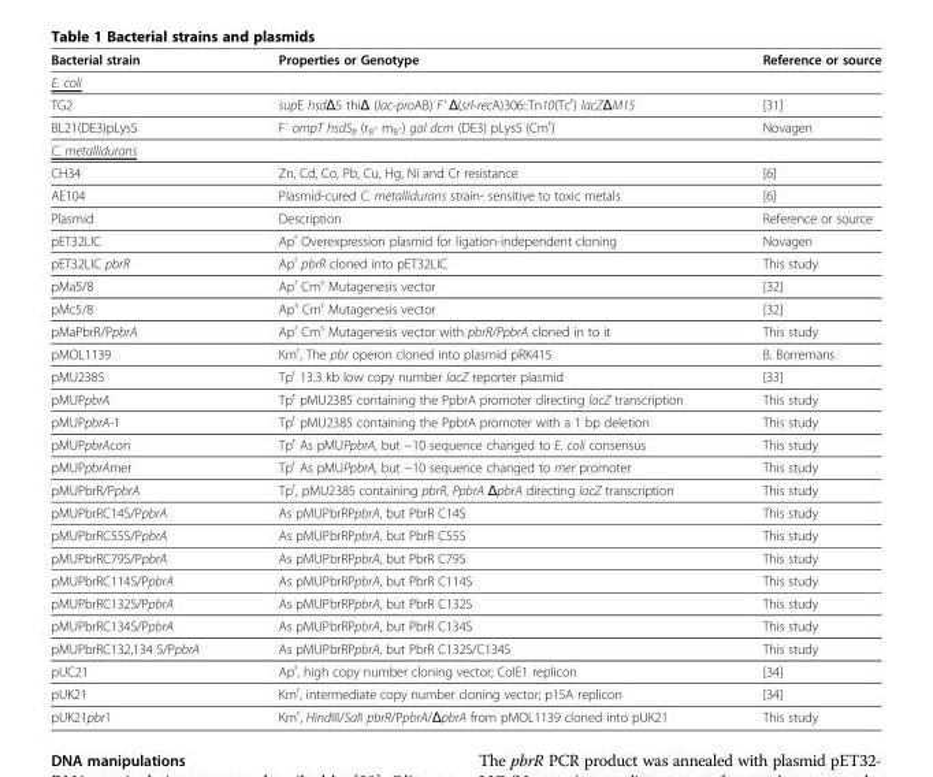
<table><thead><tr><td>Bacterial strain</td><td>Properties or Genotype</td><td>Reference or source</td></tr></thead><tbody><tr><td colspan="3">E. coli</td></tr><tr><td>TG2</td><td>supE hsdΔ5 thiΔ (lac-proAB) F&#x27; Δ(srl-recA)306::Tn10(Tc<sup>r</sup>) lacZΔM15</td><td>[31]</td></tr><tr><td>BL21(DE3)pLysS</td><td>F<sup>-</sup> ompT hsdS<sub>B</sub> (r<sub>B</sub>- m<sub>B</sub>-) gal dcm (DE3) pLysS (Cm<sup>r</sup>)</td><td>Novagen</td></tr><tr><td colspan="3">C. metallidurans</td></tr><tr><td>CH34</td><td>Zn, Cd, Co, Pb, Cu, Hg, Ni and Cr resistance</td><td>[6]</td></tr><tr><td>AE104</td><td>Plasmid-cured C. metallidurans strain- sensitive to toxic metals</td><td>[6]</td></tr><tr><td>Plasmid</td><td>Description</td><td>Reference or source</td></tr><tr><td>pET32LIC</td><td>Ap<sup>r</sup> Overexpression plasmid for ligation-independent cloning</td><td>Novagen</td></tr><tr><td>pET32LIC pbrR</td><td>Ap<sup>r</sup> pbrR cloned into pET32LIC</td><td>This study</td></tr><tr><td>pMa5/8</td><td>Ap<sup>r</sup> Cm<sup>s</sup> Mutagenesis vector</td><td>[32]</td></tr><tr><td>pMc5/8</td><td>Ap<sup>s</sup> Cm<sup>r</sup> Mutagenesis vector</td><td>[32]</td></tr><tr><td>pMaPbrR/PpbrA</td><td>Ap<sup>r</sup> Cm<sup>s</sup> Mutagenesis vector with pbrR/PpbrA cloned in to it</td><td>This study</td></tr><tr><td>pMOL1139</td><td>Km<sup>r</sup>, The pbr operon cloned into plasmid pRK415</td><td>B. Borremans</td></tr><tr><td>pMU2385</td><td>Tp<sup>r</sup> 13.3 kb low copy number lacZ reporter plasmid</td><td>[33]</td></tr><tr><td>pMUPpbrA</td><td>Tp<sup>r</sup> pMU2385 containing the PpbrA promoter directing lacZ transcription</td><td>This study</td></tr><tr><td>pMUPpbrA-1</td><td>Tp<sup>r</sup> pMU2385 containing the PpbrA promoter with a 1 bp deletion</td><td>This study</td></tr><tr><td>pMUPpbrAcon</td><td>Tp<sup>r</sup> As pMUPpbrA, but −10 sequence changed to E. coli consensus</td><td>This study</td></tr><tr><td>pMUPpbrAmer</td><td>Tp<sup>r</sup> As pMUPpbrA, but −10 sequence changed to mer promoter</td><td>This study</td></tr><tr><td>pMUPbrR/PpbrA</td><td>Tp<sup>r</sup>, pMU2385 containing pbrR, PpbrA ΔpbrA directing lacZ transcription</td><td>This study</td></tr><tr><td>pMUPbrRC14S/PpbrA</td><td>As pMUPbrRPpbrA, but PbrR C14S</td><td>This study</td></tr><tr><td>pMUPbrRC55S/PpbrA</td><td>As pMUPbrRPpbrA, but PbrR C55S</td><td>This study</td></tr><tr><td>pMUPbrRC79S/PpbrA</td><td>As pMUPbrRPpbrA, but PbrR C79S</td><td>This study</td></tr><tr><td>pMUPbrRC114S/PpbrA</td><td>As pMUPbrRPpbrA, but PbrR C114S</td><td>This study</td></tr><tr><td>pMUPbrRC132S/PpbrA</td><td>As pMUPbrRPpbrA, but PbrR C132S</td><td>This study</td></tr><tr><td>pMUPbrRC134S/PpbrA</td><td>As pMUPbrRPpbrA, but PbrR C134S</td><td>This study</td></tr><tr><td>pMUPbrRC132,134 S/PpbrA</td><td>As pMUPbrRPpbrA, but PbrR C132S/C134S</td><td>This study</td></tr><tr><td>pUC21</td><td>Ap<sup>r</sup>, high copy number cloning vector; ColE1 replicon</td><td>[34]</td></tr><tr><td>pUK21</td><td>Km<sup>r</sup>, intermediate copy number cloning vector; p15A replicon</td><td>[34]</td></tr><tr><td>pUK21pbr1</td><td>Km<sup>r</sup>, HindIII/SalI pbrR/PpbrA/ΔpbrA from pMOL1139 cloned into pUK21</td><td>This study</td></tr></tbody></table>